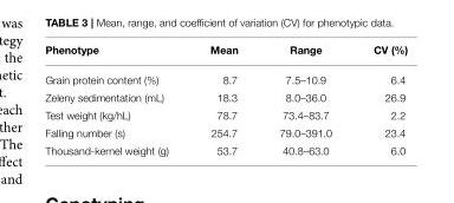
<table><thead><tr><td>Phenotype</td><td>Mean</td><td>Range</td><td>CV (%)</td></tr></thead><tbody><tr><td>Grain protein content (%)</td><td>8.7</td><td>7.5–10.9</td><td>6.4</td></tr><tr><td>Zeleny sedimentation (mL)</td><td>18.3</td><td>8.0–36.0</td><td>26.9</td></tr><tr><td>Test weight (kg/hL)</td><td>78.7</td><td>73.4–83.7</td><td>2.2</td></tr><tr><td>Falling number (s)</td><td>254.7</td><td>79.0–391.0</td><td>23.4</td></tr><tr><td>Thousand-kernel weight (g)</td><td>53.7</td><td>40.8–63.0</td><td>6.0</td></tr></tbody></table>